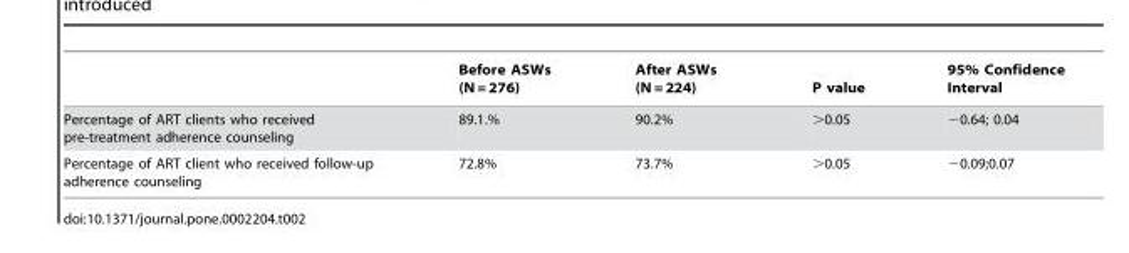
<table><thead><tr><td></td><td>Before ASWs (N = 276)</td><td>After ASWs (N = 224)</td><td>P value</td><td>95% Confidence Interval</td></tr></thead><tbody><tr><td>Percentage of ART clients who received pre-treatment adherence counseling</td><td>89.1.%</td><td>90.2%</td><td>&gt;0.05</td><td>−0.64; 0.04</td></tr><tr><td>Percentage of ART client who received follow-up adherence counseling</td><td>72.8%</td><td>73.7%</td><td>&gt;0.05</td><td>−0.09;0.07</td></tr></tbody></table>